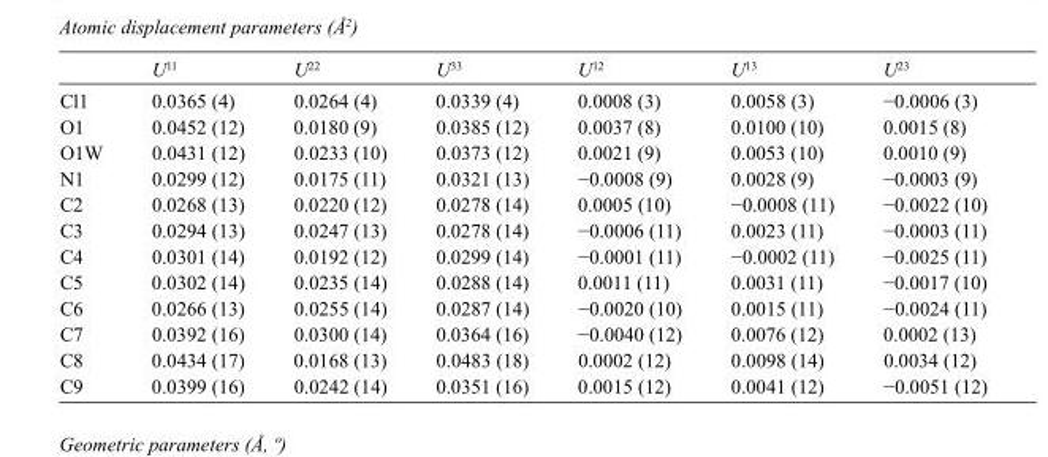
<table><thead><tr><td></td><td>U<sup>11</sup></td><td>U<sup>22</sup></td><td>U<sup>33</sup></td><td>U<sup>12</sup></td><td>U<sup>13</sup></td><td>U<sup>23</sup></td></tr></thead><tbody><tr><td>Cl1</td><td>0.0365 (4)</td><td>0.0264 (4)</td><td>0.0339 (4)</td><td>0.0008 (3)</td><td>0.0058 (3)</td><td>−0.0006 (3)</td></tr><tr><td>O1</td><td>0.0452 (12)</td><td>0.0180 (9)</td><td>0.0385 (12)</td><td>0.0037 (8)</td><td>0.0100 (10)</td><td>0.0015 (8)</td></tr><tr><td>O1W</td><td>0.0431 (12)</td><td>0.0233 (10)</td><td>0.0373 (12)</td><td>0.0021 (9)</td><td>0.0053 (10)</td><td>0.0010 (9)</td></tr><tr><td>N1</td><td>0.0299 (12)</td><td>0.0175 (11)</td><td>0.0321 (13)</td><td>−0.0008 (9)</td><td>0.0028 (9)</td><td>−0.0003 (9)</td></tr><tr><td>C2</td><td>0.0268 (13)</td><td>0.0220 (12)</td><td>0.0278 (14)</td><td>0.0005 (10)</td><td>−0.0008 (11)</td><td>−0.0022 (10)</td></tr><tr><td>C3</td><td>0.0294 (13)</td><td>0.0247 (13)</td><td>0.0278 (14)</td><td>−0.0006 (11)</td><td>0.0023 (11)</td><td>−0.0003 (11)</td></tr><tr><td>C4</td><td>0.0301 (14)</td><td>0.0192 (12)</td><td>0.0299 (14)</td><td>−0.0001 (11)</td><td>−0.0002 (11)</td><td>−0.0025 (11)</td></tr><tr><td>C5</td><td>0.0302 (14)</td><td>0.0235 (14)</td><td>0.0288 (14)</td><td>0.0011 (11)</td><td>0.0031 (11)</td><td>−0.0017 (10)</td></tr><tr><td>C6</td><td>0.0266 (13)</td><td>0.0255 (14)</td><td>0.0287 (14)</td><td>−0.0020 (10)</td><td>0.0015 (11)</td><td>−0.0024 (11)</td></tr><tr><td>C7</td><td>0.0392 (16)</td><td>0.0300 (14)</td><td>0.0364 (16)</td><td>−0.0040 (12)</td><td>0.0076 (12)</td><td>0.0002 (13)</td></tr><tr><td>C8</td><td>0.0434 (17)</td><td>0.0168 (13)</td><td>0.0483 (18)</td><td>0.0002 (12)</td><td>0.0098 (14)</td><td>0.0034 (12)</td></tr><tr><td>C9</td><td>0.0399 (16)</td><td>0.0242 (14)</td><td>0.0351 (16)</td><td>0.0015 (12)</td><td>0.0041 (12)</td><td>−0.0051 (12)</td></tr></tbody></table>